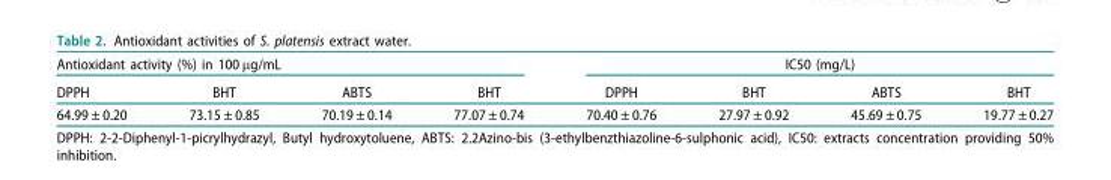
<table><thead><tr><td colspan="4">Antioxidant activity (%) in 100 μg/mL</td><td colspan="4">IC50 (mg/L)</td></tr><tr><td>DPPH</td><td>BHT</td><td>ABTS</td><td>BHT</td><td>DPPH</td><td>BHT</td><td>ABTS</td><td>BHT</td></tr></thead><tbody><tr><td>64.99 ± 0.20</td><td>73.15 ± 0.85</td><td>70.19 ± 0.14</td><td>77.07 ± 0.74</td><td>70.40 ± 0.76</td><td>27.97 ± 0.92</td><td>45.69 ± 0.75</td><td>19.77 ± 0.27</td></tr></tbody></table>